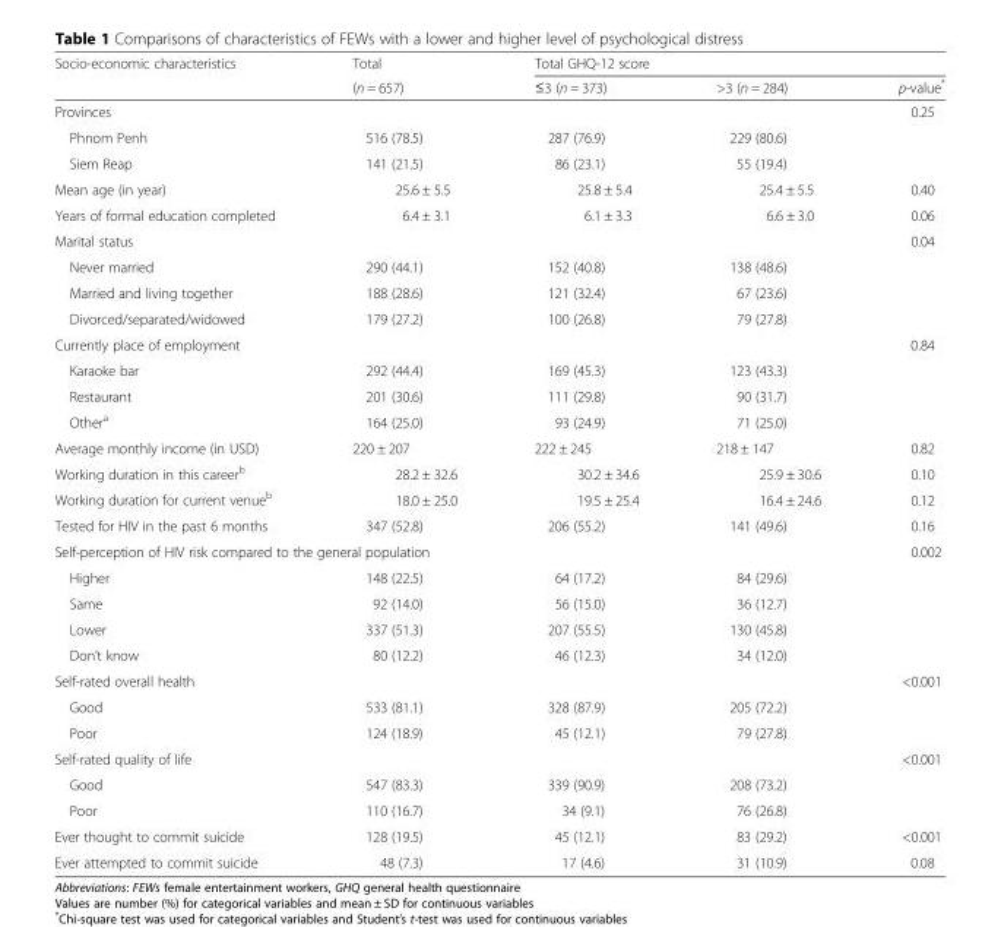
<table><thead><tr><td rowspan="2">Socio-economic characteristics</td><td rowspan="2">Total (n = 657)</td><td colspan="3">Total GHQ-12 score</td></tr><tr><td>≤3 (n = 373)</td><td>&gt;3 (n = 284)</td><td>p-value*</td></tr></thead><tbody><tr><td>Provinces</td><td></td><td></td><td></td><td>0.25</td></tr><tr><td>Phnom Penh</td><td>516 (78.5)</td><td>287 (76.9)</td><td>229 (80.6)</td><td></td></tr><tr><td>Siem Reap</td><td>141 (21.5)</td><td>86 (23.1)</td><td>55 (19.4)</td><td></td></tr><tr><td>Mean age (in year)</td><td>25.6 ± 5.5</td><td>25.8 ± 5.4</td><td>25.4 ± 5.5</td><td>0.40</td></tr><tr><td>Years of formal education completed</td><td>6.4 ± 3.1</td><td>6.1 ± 3.3</td><td>6.6 ± 3.0</td><td>0.06</td></tr><tr><td>Marital status</td><td></td><td></td><td></td><td>0.04</td></tr><tr><td>Never married</td><td>290 (44.1)</td><td>152 (40.8)</td><td>138 (48.6)</td><td></td></tr><tr><td>Married and living together</td><td>188 (28.6)</td><td>121 (32.4)</td><td>67 (23.6)</td><td></td></tr><tr><td>Divorced/separated/widowed</td><td>179 (27.2)</td><td>100 (26.8)</td><td>79 (27.8)</td><td></td></tr><tr><td>Currently place of employment</td><td></td><td></td><td></td><td>0.84</td></tr><tr><td>Karaoke bar</td><td>292 (44.4)</td><td>169 (45.3)</td><td>123 (43.3)</td><td></td></tr><tr><td>Restaurant</td><td>201 (30.6)</td><td>111 (29.8)</td><td>90 (31.7)</td><td></td></tr><tr><td>Other<sup>a</sup></td><td>164 (25.0)</td><td>93 (24.9)</td><td>71 (25.0)</td><td></td></tr><tr><td>Average monthly income (in USD)</td><td>220 ± 207</td><td>222 ± 245</td><td>218 ± 147</td><td>0.82</td></tr><tr><td>Working duration in this career<sup>b</sup></td><td>28.2 ± 32.6</td><td>30.2 ± 34.6</td><td>25.9 ± 30.6</td><td>0.10</td></tr><tr><td>Working duration for current venue<sup>b</sup></td><td>18.0 ± 25.0</td><td>19.5 ± 25.4</td><td>16.4 ± 24.6</td><td>0.12</td></tr><tr><td>Tested for HIV in the past 6 months</td><td>347 (52.8)</td><td>206 (55.2)</td><td>141 (49.6)</td><td>0.16</td></tr><tr><td colspan="3">Self-perception of HIV risk compared to the general population</td><td></td><td>0.002</td></tr><tr><td>Higher</td><td>148 (22.5)</td><td>64 (17.2)</td><td>84 (29.6)</td><td></td></tr><tr><td>Same</td><td>92 (14.0)</td><td>56 (15.0)</td><td>36 (12.7)</td><td></td></tr><tr><td>Lower</td><td>337 (51.3)</td><td>207 (55.5)</td><td>130 (45.8)</td><td></td></tr><tr><td>Don’t know</td><td>80 (12.2)</td><td>46 (12.3)</td><td>34 (12.0)</td><td></td></tr><tr><td colspan="3">Self-rated overall health</td><td></td><td>&lt;0.001</td></tr><tr><td>Good</td><td>533 (81.1)</td><td>328 (87.9)</td><td>205 (72.2)</td><td></td></tr><tr><td>Poor</td><td>124 (18.9)</td><td>45 (12.1)</td><td>79 (27.8)</td><td></td></tr><tr><td>Self-rated quality of life</td><td></td><td></td><td></td><td>&lt;0.001</td></tr><tr><td>Good</td><td>547 (83.3)</td><td>339 (90.9)</td><td>208 (73.2)</td><td></td></tr><tr><td>Poor</td><td>110 (16.7)</td><td>34 (9.1)</td><td>76 (26.8)</td><td></td></tr><tr><td>Ever thought to commit suicide</td><td>128 (19.5)</td><td>45 (12.1)</td><td>83 (29.2)</td><td>&lt;0.001</td></tr><tr><td>Ever attempted to commit suicide</td><td>48 (7.3)</td><td>17 (4.6)</td><td>31 (10.9)</td><td>0.08</td></tr></tbody></table>